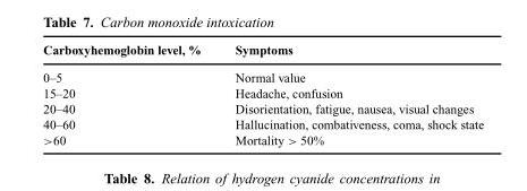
<table><thead><tr><td>Carboxyhemoglobin level, %</td><td>Symptoms</td></tr></thead><tbody><tr><td>0–5</td><td>Normal value</td></tr><tr><td>15–20</td><td>Headache, confusion</td></tr><tr><td>20–40</td><td>Disorientation, fatigue, nausea, visual changes</td></tr><tr><td>40–60</td><td>Hallucination, combativeness, coma, shock state</td></tr><tr><td>&gt;60</td><td>Mortality &gt; 50%</td></tr></tbody></table>